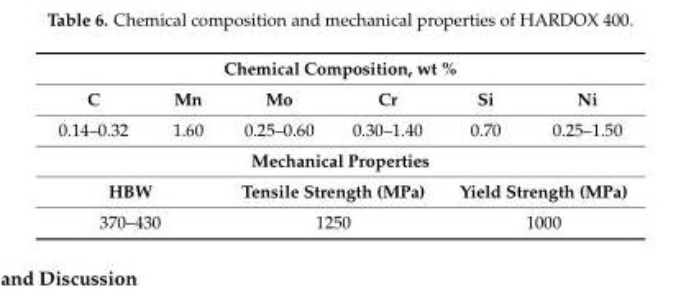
<table><thead><tr><td colspan="6">Chemical Composition, wt %</td></tr><tr><td>C</td><td>Mn</td><td>Mo</td><td>Cr</td><td>Si</td><td>Ni</td></tr></thead><tbody><tr><td>0.14–0.32</td><td>1.60</td><td>0.25–0.60</td><td>0.30–1.40</td><td>0.70</td><td>0.25–1.50</td></tr><tr><td colspan="6">Mechanical Properties</td></tr><tr><td colspan="2">HBW</td><td colspan="2">Tensile Strength (MPa)</td><td colspan="2">Yield Strength (MPa)</td></tr><tr><td colspan="2">370–430</td><td colspan="2">1250</td><td colspan="2">1000</td></tr></tbody></table>